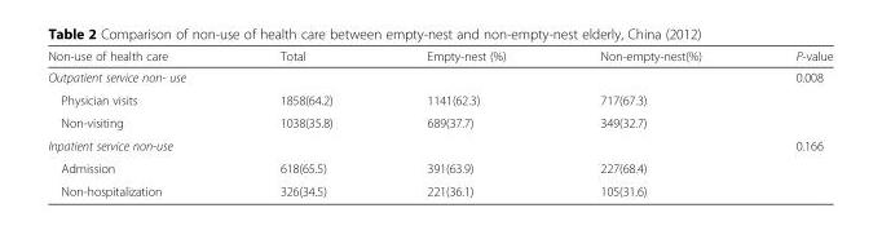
<table><thead><tr><td>Non-use of health care</td><td>Total</td><td>Empty-nest (%)</td><td>Non-empty-nest(%)</td><td>P-value</td></tr></thead><tbody><tr><td>Outpatient service non- use</td><td></td><td></td><td></td><td>0.008</td></tr><tr><td>Physician visits</td><td>1858(64.2)</td><td>1141(62.3)</td><td>717(67.3)</td><td></td></tr><tr><td>Non-visiting</td><td>1038(35.8)</td><td>689(37.7)</td><td>349(32.7)</td><td></td></tr><tr><td>Inpatient service non-use</td><td></td><td></td><td></td><td>0.166</td></tr><tr><td>Admission</td><td>618(65.5)</td><td>391(63.9)</td><td>227(68.4)</td><td></td></tr><tr><td>Non-hospitalization</td><td>326(34.5)</td><td>221(36.1)</td><td>105(31.6)</td><td></td></tr></tbody></table>